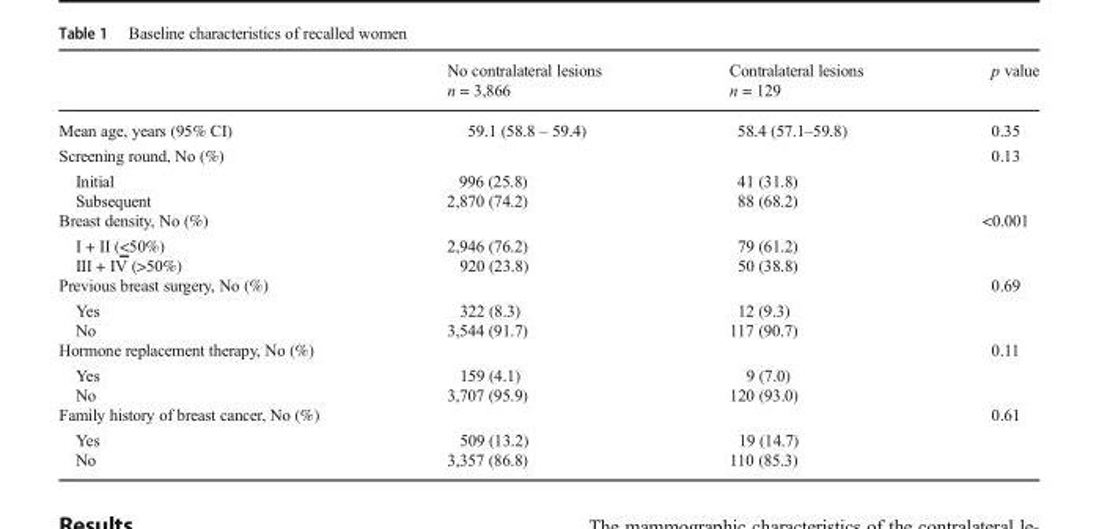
<table><thead><tr><td></td><td>No contralateral lesions n = 3,866</td><td>Contralateral lesions n = 129</td><td>p value</td></tr></thead><tbody><tr><td>Mean age, years (95% CI)</td><td>59.1 (58.8 – 59.4)</td><td>58.4 (57.1–59.8)</td><td>0.35</td></tr><tr><td>Screening round, No (%)</td><td></td><td></td><td>0.13</td></tr><tr><td>Initial Subsequent</td><td>996 (25.8) 2,870 (74.2)</td><td>41 (31.8) 88 (68.2)</td><td></td></tr><tr><td>Breast density, No (%)</td><td></td><td></td><td>&lt;0.001</td></tr><tr><td>I + II (&lt;50%) III + IV (&gt;50%)</td><td>2,946 (76.2) 920 (23.8)</td><td>79 (61.2) 50 (38.8)</td><td></td></tr><tr><td>Previous breast surgery, No (%)</td><td></td><td></td><td>0.69</td></tr><tr><td>Yes No</td><td>322 (8.3) 3,544 (91.7)</td><td>12 (9.3) 117 (90.7)</td><td></td></tr><tr><td>Hormone replacement therapy, No (%)</td><td></td><td></td><td>0.11</td></tr><tr><td>Yes No</td><td>159 (4.1) 3,707 (95.9)</td><td>9 (7.0) 120 (93.0)</td><td></td></tr><tr><td>Family history of breast cancer, No (%)</td><td></td><td></td><td>0.61</td></tr><tr><td>Yes No</td><td>509 (13.2) 3,357 (86.8)</td><td>19 (14.7) 110 (85.3)</td><td></td></tr></tbody></table>